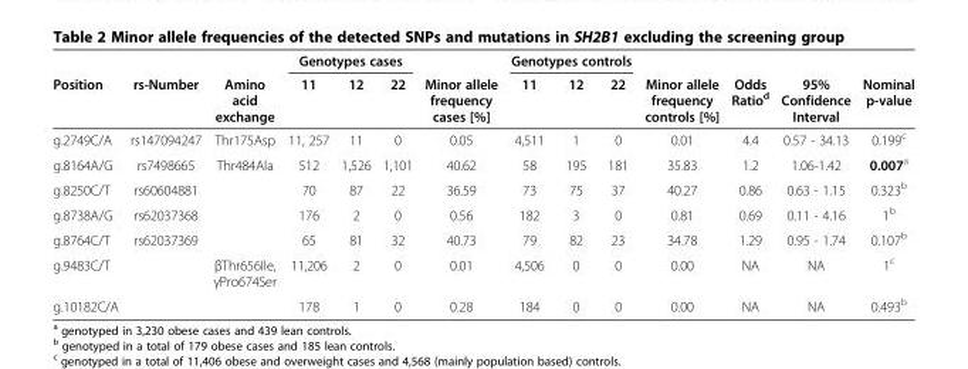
<table><thead><tr><td rowspan="2">Position</td><td rowspan="2">rs-Number</td><td rowspan="2">Amino acid exchange</td><td colspan="3">Genotypes cases</td><td rowspan="2">Minor allele frequency cases [%]</td><td colspan="3">Genotypes controls</td><td rowspan="2">Minor allele frequency controls [%]</td><td rowspan="2">Odds Ratio<sup>d</sup></td><td rowspan="2">95% Confidence Interval</td><td rowspan="2">Nominal p-value</td></tr><tr><td>11</td><td>12</td><td>22</td><td>11</td><td>12</td><td>22</td></tr></thead><tbody><tr><td>g.2749C/A</td><td>rs147094247</td><td>Thr175Asp</td><td>11, 257</td><td>11</td><td>0</td><td>0.05</td><td>4,511</td><td>1</td><td>0</td><td>0.01</td><td>4.4</td><td>0.57 - 34.13</td><td>0.199<sup>c</sup></td></tr><tr><td>g.8164A/G</td><td>rs7498665</td><td>Thr484Ala</td><td>512</td><td>1,526</td><td>1,101</td><td>40.62</td><td>58</td><td>195</td><td>181</td><td>35.83</td><td>1.2</td><td>1.06-1.42</td><td>0.007<sup>a</sup></td></tr><tr><td>g.8250C/T</td><td>rs60604881</td><td></td><td>70</td><td>87</td><td>22</td><td>36.59</td><td>73</td><td>75</td><td>37</td><td>40.27</td><td>0.86</td><td>0.63 - 1.15</td><td>0.323<sup>b</sup></td></tr><tr><td>g.8738A/G</td><td>rs62037368</td><td></td><td>176</td><td>2</td><td>0</td><td>0.56</td><td>182</td><td>3</td><td>0</td><td>0.81</td><td>0.69</td><td>0.11 - 4.16</td><td>1<sup>b</sup></td></tr><tr><td>g.8764C/T</td><td>rs62037369</td><td></td><td>65</td><td>81</td><td>32</td><td>40.73</td><td>79</td><td>82</td><td>23</td><td>34.78</td><td>1.29</td><td>0.95 - 1.74</td><td>0.107<sup>b</sup></td></tr><tr><td>g.9483C/T</td><td></td><td>βThr656Ile, γPro674Ser</td><td>11,206</td><td>2</td><td>0</td><td>0.01</td><td>4,506</td><td>0</td><td>0</td><td>0.00</td><td>NA</td><td>NA</td><td>1<sup>c</sup></td></tr><tr><td>g.10182C/A</td><td></td><td></td><td>178</td><td>1</td><td>0</td><td>0.28</td><td>184</td><td>0</td><td>0</td><td>0.00</td><td>NA</td><td>NA</td><td>0.493<sup>b</sup></td></tr></tbody></table>